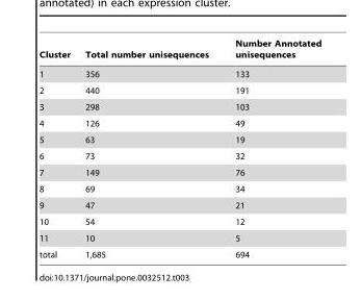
<table><thead><tr><td>Cluster</td><td>Total number unisequences</td><td>Number Annotated unisequences</td></tr></thead><tbody><tr><td>1</td><td>356</td><td>133</td></tr><tr><td>2</td><td>440</td><td>191</td></tr><tr><td>3</td><td>298</td><td>103</td></tr><tr><td>4</td><td>126</td><td>49</td></tr><tr><td>5</td><td>63</td><td>19</td></tr><tr><td>6</td><td>73</td><td>32</td></tr><tr><td>7</td><td>149</td><td>76</td></tr><tr><td>8</td><td>69</td><td>34</td></tr><tr><td>9</td><td>47</td><td>21</td></tr><tr><td>10</td><td>54</td><td>12</td></tr><tr><td>11</td><td>10</td><td>5</td></tr><tr><td>total</td><td>1,685</td><td>694</td></tr></tbody></table>